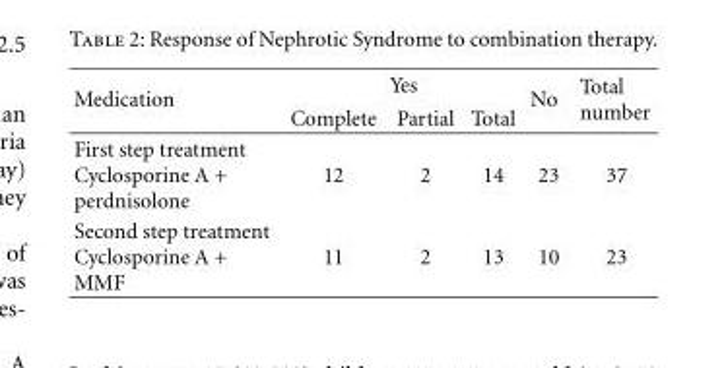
<table><thead><tr><td rowspan="2">Medication</td><td colspan="3">Yes</td><td rowspan="2">No</td><td rowspan="2">Total number</td></tr><tr><td>Complete</td><td>Partial</td><td>Total</td></tr></thead><tbody><tr><td>First step treatment Cyclosporine A + perdnisolone</td><td>12</td><td>2</td><td>14</td><td>23</td><td>37</td></tr><tr><td>Second step treatment Cyclosporine A + MMF</td><td>11</td><td>2</td><td>13</td><td>10</td><td>23</td></tr></tbody></table>